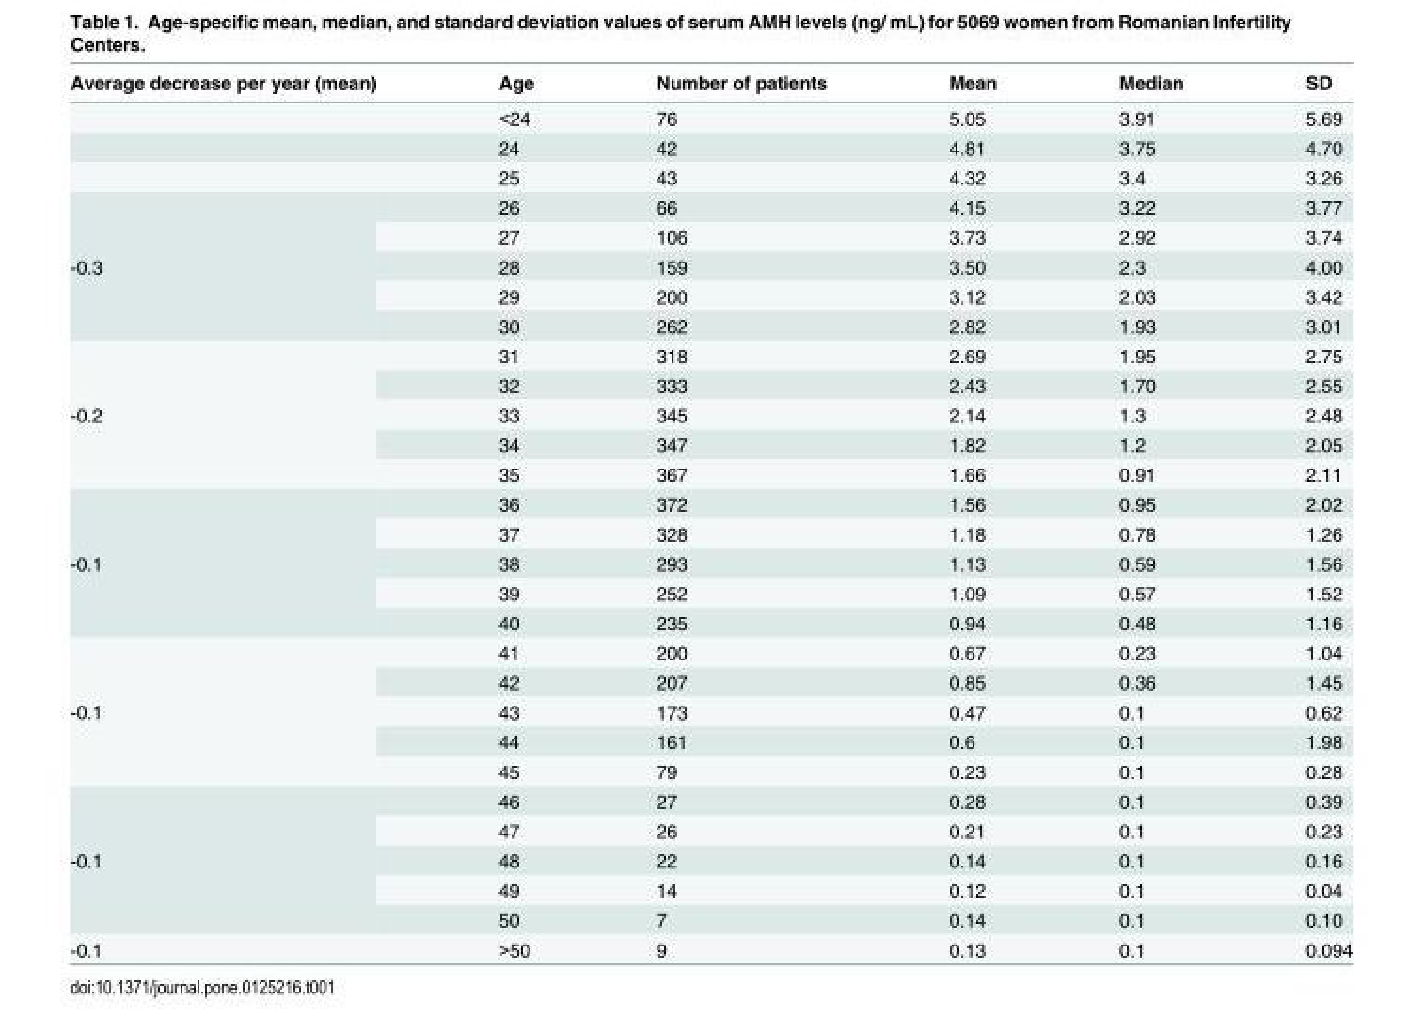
<table><thead><tr><td>Average decrease per year (mean)</td><td>Age</td><td>Number of patients</td><td>Mean</td><td>Median</td><td>SD</td></tr></thead><tbody><tr><td></td><td>&lt;24</td><td>76</td><td>5.05</td><td>3.91</td><td>5.69</td></tr><tr><td></td><td>24</td><td>42</td><td>4.81</td><td>3.75</td><td>4.70</td></tr><tr><td></td><td>25</td><td>43</td><td>4.32</td><td>3.4</td><td>3.26</td></tr><tr><td rowspan="5">-0.3</td><td>26</td><td>66</td><td>4.15</td><td>3.22</td><td>3.77</td></tr><tr><td>27</td><td>106</td><td>3.73</td><td>2.92</td><td>3.74</td></tr><tr><td>28</td><td>159</td><td>3.50</td><td>2.3</td><td>4.00</td></tr><tr><td>29</td><td>200</td><td>3.12</td><td>2.03</td><td>3.42</td></tr><tr><td>30</td><td>262</td><td>2.82</td><td>1.93</td><td>3.01</td></tr><tr><td rowspan="5">-0.2</td><td>31</td><td>318</td><td>2.69</td><td>1.95</td><td>2.75</td></tr><tr><td>32</td><td>333</td><td>2.43</td><td>1.70</td><td>2.55</td></tr><tr><td>33</td><td>345</td><td>2.14</td><td>1.3</td><td>2.48</td></tr><tr><td>34</td><td>347</td><td>1.82</td><td>1.2</td><td>2.05</td></tr><tr><td>35</td><td>367</td><td>1.66</td><td>0.91</td><td>2.11</td></tr><tr><td rowspan="5">-0.1</td><td>36</td><td>372</td><td>1.56</td><td>0.95</td><td>2.02</td></tr><tr><td>37</td><td>328</td><td>1.18</td><td>0.78</td><td>1.26</td></tr><tr><td>38</td><td>293</td><td>1.13</td><td>0.59</td><td>1.56</td></tr><tr><td>39</td><td>252</td><td>1.09</td><td>0.57</td><td>1.52</td></tr><tr><td>40</td><td>235</td><td>0.94</td><td>0.48</td><td>1.16</td></tr><tr><td rowspan="5">-0.1</td><td>41</td><td>200</td><td>0.67</td><td>0.23</td><td>1.04</td></tr><tr><td>42</td><td>207</td><td>0.85</td><td>0.36</td><td>1.45</td></tr><tr><td>43</td><td>173</td><td>0.47</td><td>0.1</td><td>0.62</td></tr><tr><td>44</td><td>161</td><td>0.6</td><td>0.1</td><td>1.98</td></tr><tr><td>45</td><td>79</td><td>0.23</td><td>0.1</td><td>0.28</td></tr><tr><td rowspan="5">-0.1</td><td>46</td><td>27</td><td>0.28</td><td>0.1</td><td>0.39</td></tr><tr><td>47</td><td>26</td><td>0.21</td><td>0.1</td><td>0.23</td></tr><tr><td>48</td><td>22</td><td>0.14</td><td>0.1</td><td>0.16</td></tr><tr><td>49</td><td>14</td><td>0.12</td><td>0.1</td><td>0.04</td></tr><tr><td>50</td><td>7</td><td>0.14</td><td>0.1</td><td>0.10</td></tr><tr><td>-0.1</td><td>&gt;50</td><td>9</td><td>0.13</td><td>0.1</td><td>0.094</td></tr></tbody></table>